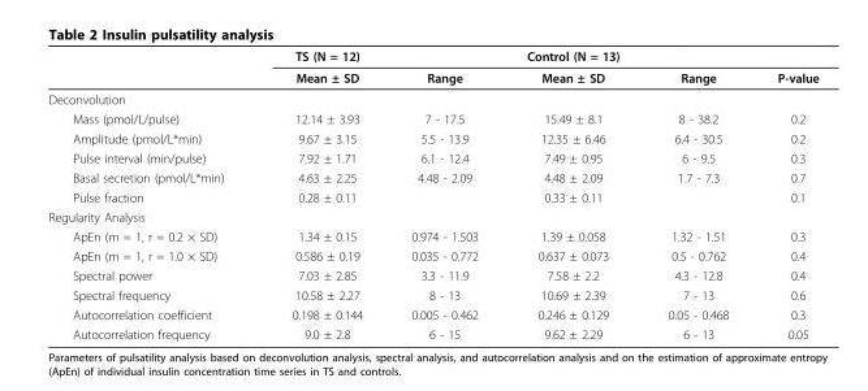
<table><thead><tr><td rowspan="2"></td><td rowspan="2">TS (N = 12) Mean ± SD</td><td rowspan="2">Range</td><td rowspan="2">Control (N = 13) Mean ± SD</td><td rowspan="2">Range</td><td rowspan="2">P-value</td></tr><tr></tr></thead><tbody><tr><td colspan="6">Deconvolution</td></tr><tr><td>Mass (pmol/L/pulse)</td><td>12.14 ± 3.93</td><td>7 - 17.5</td><td>15.49 ± 8.1</td><td>8 - 38.2</td><td>0.2</td></tr><tr><td>Amplitude (pmol/L*min)</td><td>9.67 ± 3.15</td><td>5.5 - 13.9</td><td>12.35 ± 6.46</td><td>6.4 - 30.5</td><td>0.2</td></tr><tr><td>Pulse interval (min/pulse)</td><td>7.92 ± 1.71</td><td>6.1 - 12.4</td><td>7.49 ± 0.95</td><td>6 - 9.5</td><td>0.3</td></tr><tr><td>Basal secretion (pmol/L*min)</td><td>4.63 ± 2.25</td><td>4.48 - 2.09</td><td>4.48 ± 2.09</td><td>1.7 - 7.3</td><td>0.7</td></tr><tr><td>Pulse fraction</td><td>0.28 ± 0.11</td><td></td><td>0.33 ± 0.11</td><td></td><td>0.1</td></tr><tr><td colspan="6">Regularity Analysis</td></tr><tr><td>ApEn (m = 1, r = 0.2 × SD)</td><td>1.34 ± 0.15</td><td>0.974 - 1.503</td><td>1.39 ± 0.058</td><td>1.32 - 1.51</td><td>0.3</td></tr><tr><td>ApEn (m = 1, r = 1.0 × SD)</td><td>0.586 ± 0.19</td><td>0.035 - 0.772</td><td>0.637 ± 0.073</td><td>0.5 - 0.762</td><td>0.4</td></tr><tr><td>Spectral power</td><td>7.03 ± 2.85</td><td>3.3 - 11.9</td><td>7.58 ± 2.2</td><td>4.3 - 12.8</td><td>0.4</td></tr><tr><td>Spectral frequency</td><td>10.58 ± 2.27</td><td>8 - 13</td><td>10.69 ± 2.39</td><td>7 - 13</td><td>0.6</td></tr><tr><td>Autocorrelation coefficient</td><td>0.198 ± 0.144</td><td>0.005 - 0.462</td><td>0.246 ± 0.129</td><td>0.05 - 0.468</td><td>0.3</td></tr><tr><td>Autocorrelation frequency</td><td>9.0 ± 2.8</td><td>6 - 15</td><td>9.62 ± 2.29</td><td>6 - 13</td><td>0.05</td></tr></tbody></table>